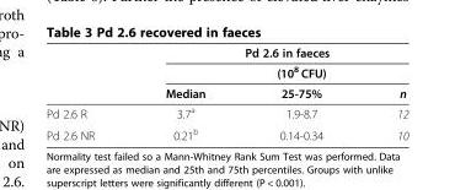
<table><thead><tr><td rowspan="3"></td><td colspan="3">Pd 2.6 in faeces</td></tr><tr><td rowspan="2">Median</td><td rowspan="2">(10<sup>8</sup> CFU) 25-75%</td><td rowspan="2">n</td></tr><tr></tr></thead><tbody><tr><td>Pd 2.6 R</td><td>3.7<sup>a</sup></td><td>1.9-8.7</td><td>12</td></tr><tr><td>Pd 2.6 NR</td><td>0.21<sup>b</sup></td><td>0.14-0.34</td><td>10</td></tr></tbody></table>